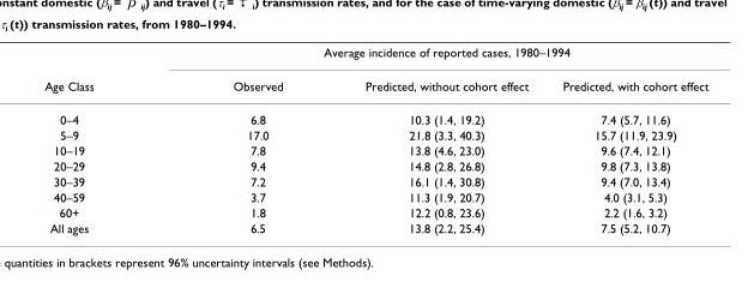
<table><thead><tr><td rowspan="2">Age Class</td><td colspan="3">Average incidence of reported cases, 1980–1994</td></tr><tr><td>Observed</td><td>Predicted, without cohort effect</td><td>Predicted, with cohort effect</td></tr></thead><tbody><tr><td>0–4</td><td>6.8</td><td>10.3 (1.4, 19.2)</td><td>7.4 (5.7, 11.6)</td></tr><tr><td>5–9</td><td>17.0</td><td>21.8 (3.3, 40.3)</td><td>15.7 (11.9, 23.9)</td></tr><tr><td>10–19</td><td>7.8</td><td>13.8 (4.6, 23.0)</td><td>9.6 (7.4, 12.1)</td></tr><tr><td>20–29</td><td>9.4</td><td>14.8 (2.8, 26.8)</td><td>9.8 (7.3, 13.8)</td></tr><tr><td>30–39</td><td>7.2</td><td>16.1 (1.4, 30.8)</td><td>9.4 (7.0, 13.4)</td></tr><tr><td>40–59</td><td>3.7</td><td>11.3 (1.9, 20.7)</td><td>4.0 (3.1, 5.3)</td></tr><tr><td>60+</td><td>1.8</td><td>12.2 (0.8, 23.6)</td><td>2.2 (1.6, 3.2)</td></tr><tr><td>All ages</td><td>6.5</td><td>13.8 (2.2, 25.4)</td><td>7.5 (5.2, 10.7)</td></tr></tbody></table>